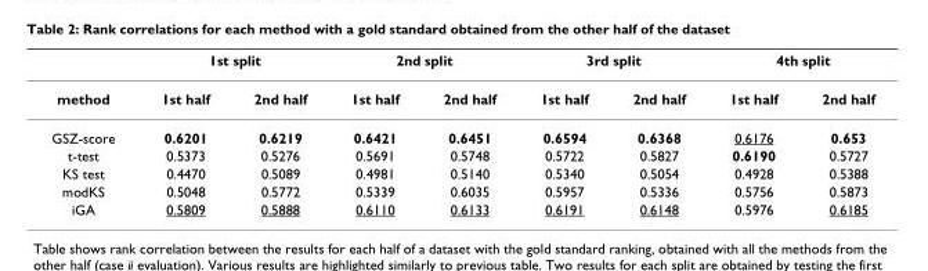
<table><thead><tr><td rowspan="2">method</td><td colspan="2">1st split</td><td colspan="2">2nd split</td><td colspan="2">3rd split</td><td colspan="2">4th split</td></tr><tr><td>1st half</td><td>2nd half</td><td>1st half</td><td>2nd half</td><td>1st half</td><td>2nd half</td><td>1st half</td><td>2nd half</td></tr></thead><tbody><tr><td>GSZ-score</td><td>0.6201</td><td>0.6219</td><td>0.6421</td><td>0.6451</td><td>0.6594</td><td>0.6368</td><td>0.6176</td><td>0.653</td></tr><tr><td>t-test</td><td>0.5373</td><td>0.5276</td><td>0.5691</td><td>0.5748</td><td>0.5722</td><td>0.5827</td><td>0.6190</td><td>0.5727</td></tr><tr><td>KS test</td><td>0.4470</td><td>0.5089</td><td>0.4981</td><td>0.5140</td><td>0.5340</td><td>0.5054</td><td>0.4928</td><td>0.5388</td></tr><tr><td>modKS</td><td>0.5048</td><td>0.5772</td><td>0.5339</td><td>0.6035</td><td>0.5957</td><td>0.5336</td><td>0.5756</td><td>0.5873</td></tr><tr><td>iGA</td><td>0.5809</td><td>0.5888</td><td>0.6110</td><td>0.6133</td><td>0.6191</td><td>0.6148</td><td>0.5976</td><td>0.6185</td></tr></tbody></table>